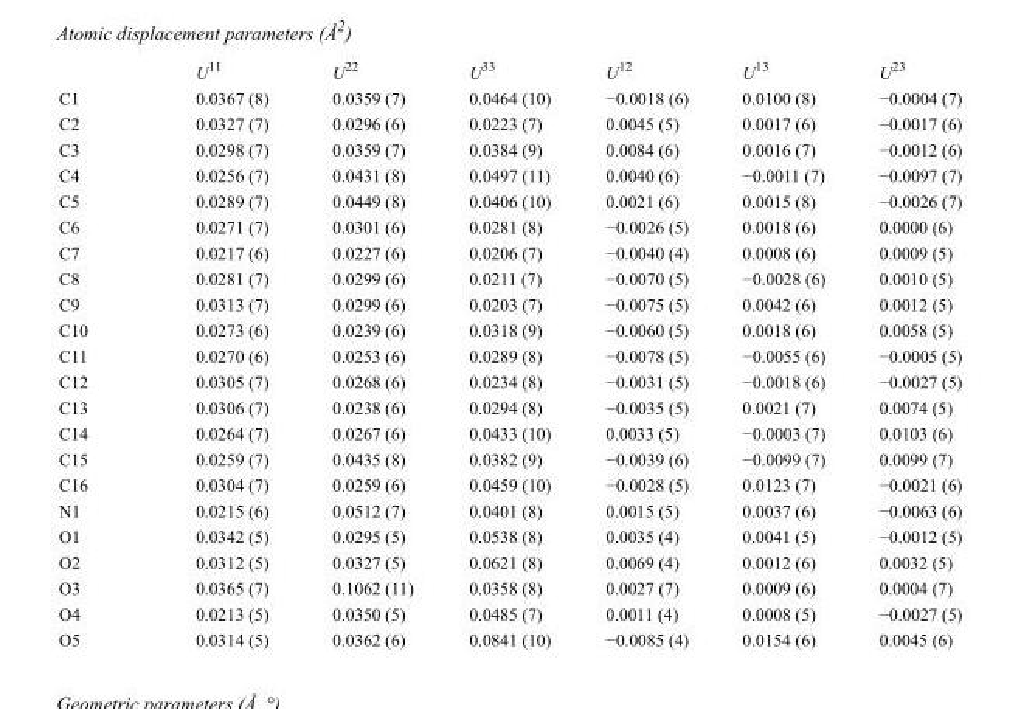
<table><thead><tr><td></td><td>U<sup>11</sup></td><td>U<sup>22</sup></td><td>U<sup>33</sup></td><td>U<sup>12</sup></td><td>U<sup>13</sup></td><td>U<sup>23</sup></td></tr></thead><tbody><tr><td>C1</td><td>0.0367 (8)</td><td>0.0359 (7)</td><td>0.0464 (10)</td><td>−0.0018 (6)</td><td>0.0100 (8)</td><td>−0.0004 (7)</td></tr><tr><td>C2</td><td>0.0327 (7)</td><td>0.0296 (6)</td><td>0.0223 (7)</td><td>0.0045 (5)</td><td>0.0017 (6)</td><td>−0.0017 (6)</td></tr><tr><td>C3</td><td>0.0298 (7)</td><td>0.0359 (7)</td><td>0.0384 (9)</td><td>0.0084 (6)</td><td>0.0016 (7)</td><td>−0.0012 (6)</td></tr><tr><td>C4</td><td>0.0256 (7)</td><td>0.0431 (8)</td><td>0.0497 (11)</td><td>0.0040 (6)</td><td>−0.0011 (7)</td><td>−0.0097 (7)</td></tr><tr><td>C5</td><td>0.0289 (7)</td><td>0.0449 (8)</td><td>0.0406 (10)</td><td>0.0021 (6)</td><td>0.0015 (8)</td><td>−0.0026 (7)</td></tr><tr><td>C6</td><td>0.0271 (7)</td><td>0.0301 (6)</td><td>0.0281 (8)</td><td>−0.0026 (5)</td><td>0.0018 (6)</td><td>0.0000 (6)</td></tr><tr><td>C7</td><td>0.0217 (6)</td><td>0.0227 (6)</td><td>0.0206 (7)</td><td>−0.0040 (4)</td><td>0.0008 (6)</td><td>0.0009 (5)</td></tr><tr><td>C8</td><td>0.0281 (7)</td><td>0.0299 (6)</td><td>0.0211 (7)</td><td>−0.0070 (5)</td><td>−0.0028 (6)</td><td>0.0010 (5)</td></tr><tr><td>C9</td><td>0.0313 (7)</td><td>0.0299 (6)</td><td>0.0203 (7)</td><td>−0.0075 (5)</td><td>0.0042 (6)</td><td>0.0012 (5)</td></tr><tr><td>C10</td><td>0.0273 (6)</td><td>0.0239 (6)</td><td>0.0318 (9)</td><td>−0.0060 (5)</td><td>0.0018 (6)</td><td>0.0058 (5)</td></tr><tr><td>C11</td><td>0.0270 (6)</td><td>0.0253 (6)</td><td>0.0289 (8)</td><td>−0.0078 (5)</td><td>−0.0055 (6)</td><td>−0.0005 (5)</td></tr><tr><td>C12</td><td>0.0305 (7)</td><td>0.0268 (6)</td><td>0.0234 (8)</td><td>−0.0031 (5)</td><td>−0.0018 (6)</td><td>−0.0027 (5)</td></tr><tr><td>C13</td><td>0.0306 (7)</td><td>0.0238 (6)</td><td>0.0294 (8)</td><td>−0.0035 (5)</td><td>0.0021 (7)</td><td>0.0074 (5)</td></tr><tr><td>C14</td><td>0.0264 (7)</td><td>0.0267 (6)</td><td>0.0433 (10)</td><td>0.0033 (5)</td><td>−0.0003 (7)</td><td>0.0103 (6)</td></tr><tr><td>C15</td><td>0.0259 (7)</td><td>0.0435 (8)</td><td>0.0382 (9)</td><td>−0.0039 (6)</td><td>−0.0099 (7)</td><td>0.0099 (7)</td></tr><tr><td>C16</td><td>0.0304 (7)</td><td>0.0259 (6)</td><td>0.0459 (10)</td><td>−0.0028 (5)</td><td>0.0123 (7)</td><td>−0.0021 (6)</td></tr><tr><td>N1</td><td>0.0215 (6)</td><td>0.0512 (7)</td><td>0.0401 (8)</td><td>0.0015 (5)</td><td>0.0037 (6)</td><td>−0.0063 (6)</td></tr><tr><td>O1</td><td>0.0342 (5)</td><td>0.0295 (5)</td><td>0.0538 (8)</td><td>0.0035 (4)</td><td>0.0041 (5)</td><td>−0.0012 (5)</td></tr><tr><td>O2</td><td>0.0312 (5)</td><td>0.0327 (5)</td><td>0.0621 (8)</td><td>0.0069 (4)</td><td>0.0012 (6)</td><td>0.0032 (5)</td></tr><tr><td>O3</td><td>0.0365 (7)</td><td>0.1062 (11)</td><td>0.0358 (8)</td><td>0.0027 (7)</td><td>0.0009 (6)</td><td>0.0004 (7)</td></tr><tr><td>O4</td><td>0.0213 (5)</td><td>0.0350 (5)</td><td>0.0485 (7)</td><td>0.0011 (4)</td><td>0.0008 (5)</td><td>−0.0027 (5)</td></tr><tr><td>O5</td><td>0.0314 (5)</td><td>0.0362 (6)</td><td>0.0841 (10)</td><td>−0.0085 (4)</td><td>0.0154 (6)</td><td>0.0045 (6)</td></tr></tbody></table>